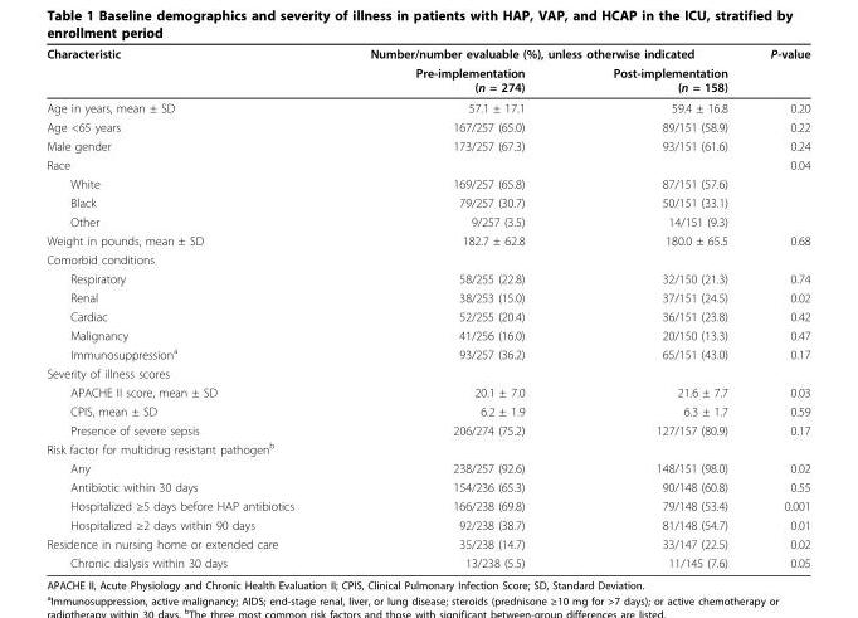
<table><thead><tr><td rowspan="2">Characteristic</td><td colspan="2">Number/number evaluable (%), unless otherwise indicated</td><td rowspan="2">P-value</td></tr><tr><td>Pre-implementation (n = 274)</td><td>Post-implementation (n = 158)</td></tr></thead><tbody><tr><td>Age in years, mean ± SD</td><td>57.1 ± 17.1</td><td>59.4 ± 16.8</td><td>0.20</td></tr><tr><td>Age &lt;65 years</td><td>167/257 (65.0)</td><td>89/151 (58.9)</td><td>0.22</td></tr><tr><td>Male gender</td><td>173/257 (67.3)</td><td>93/151 (61.6)</td><td>0.24</td></tr><tr><td>Race</td><td></td><td></td><td>0.04</td></tr><tr><td>White</td><td>169/257 (65.8)</td><td>87/151 (57.6)</td><td></td></tr><tr><td>Black</td><td>79/257 (30.7)</td><td>50/151 (33.1)</td><td></td></tr><tr><td>Other</td><td>9/257 (3.5)</td><td>14/151 (9.3)</td><td></td></tr><tr><td>Weight in pounds, mean ± SD</td><td>182.7 ± 62.8</td><td>180.0 ± 65.5</td><td>0.68</td></tr><tr><td colspan="4">Comorbid conditions</td></tr><tr><td>Respiratory</td><td>58/255 (22.8)</td><td>32/150 (21.3)</td><td>0.74</td></tr><tr><td>Renal</td><td>38/253 (15.0)</td><td>37/151 (24.5)</td><td>0.02</td></tr><tr><td>Cardiac</td><td>52/255 (20.4)</td><td>36/151 (23.8)</td><td>0.42</td></tr><tr><td>Malignancy</td><td>41/256 (16.0)</td><td>20/150 (13.3)</td><td>0.47</td></tr><tr><td>Immunosuppression<sup>a</sup></td><td>93/257 (36.2)</td><td>65/151 (43.0)</td><td>0.17</td></tr><tr><td colspan="4">Severity of illness scores</td></tr><tr><td>APACHE II score, mean ± SD</td><td>20.1 ± 7.0</td><td>21.6 ± 7.7</td><td>0.03</td></tr><tr><td>CPIS, mean ± SD</td><td>6.2 ± 1.9</td><td>6.3 ± 1.7</td><td>0.59</td></tr><tr><td>Presence of severe sepsis</td><td>206/274 (75.2)</td><td>127/157 (80.9)</td><td>0.17</td></tr><tr><td colspan="4">Risk factor for multidrug resistant pathogen<sup>b</sup></td></tr><tr><td>Any</td><td>238/257 (92.6)</td><td>148/151 (98.0)</td><td>0.02</td></tr><tr><td>Antibiotic within 30 days</td><td>154/236 (65.3)</td><td>90/148 (60.8)</td><td>0.55</td></tr><tr><td>Hospitalized ≥5 days before HAP antibiotics</td><td>166/238 (69.8)</td><td>79/148 (53.4)</td><td>0.001</td></tr><tr><td>Hospitalized ≥2 days within 90 days</td><td>92/238 (38.7)</td><td>81/148 (54.7)</td><td>0.01</td></tr><tr><td>Residence in nursing home or extended care</td><td>35/238 (14.7)</td><td>33/147 (22.5)</td><td>0.02</td></tr><tr><td>Chronic dialysis within 30 days</td><td>13/238 (5.5)</td><td>11/145 (7.6)</td><td>0.05</td></tr></tbody></table>